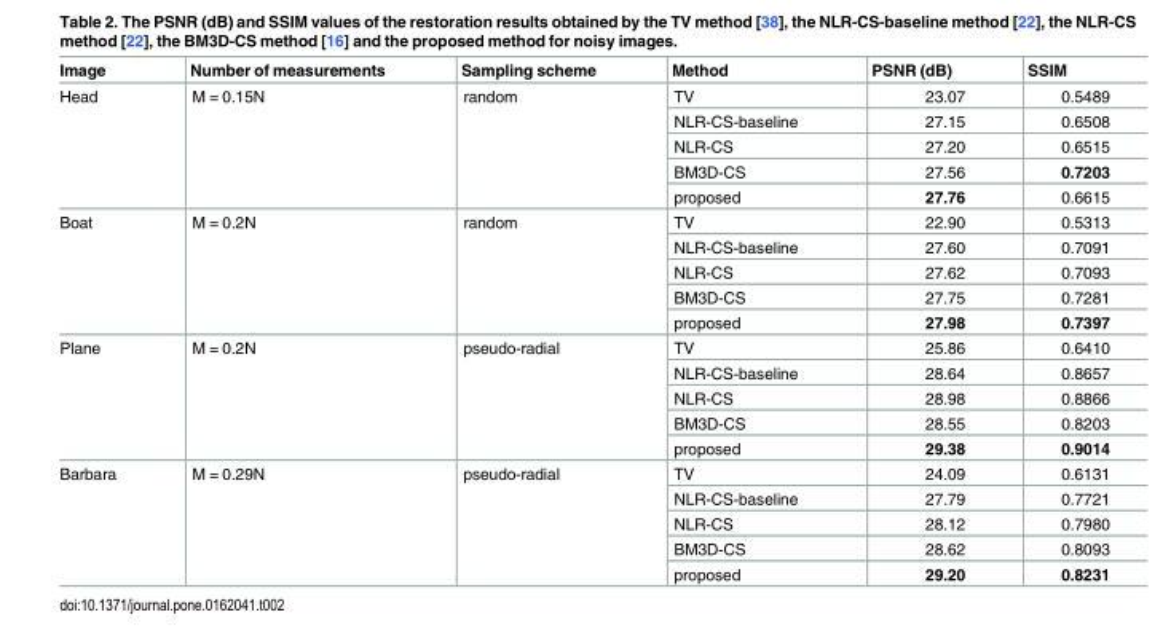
<table><thead><tr><td>Image</td><td>Number of measurements</td><td>Sampling scheme</td><td>Method</td><td>PSNR (dB)</td><td>SSIM</td></tr></thead><tbody><tr><td rowspan="5">Head</td><td rowspan="5">M = 0.15N</td><td rowspan="5">random</td><td>TV</td><td>23.07</td><td>0.5489</td></tr><tr><td>NLR-CS-baseline</td><td>27.15</td><td>0.6508</td></tr><tr><td>NLR-CS</td><td>27.20</td><td>0.6515</td></tr><tr><td>BM3D-CS</td><td>27.56</td><td>0.7203</td></tr><tr><td>proposed</td><td>27.76</td><td>0.6615</td></tr><tr><td rowspan="5">Boat</td><td rowspan="5">M = 0.2N</td><td rowspan="5">random</td><td>TV</td><td>22.90</td><td>0.5313</td></tr><tr><td>NLR-CS-baseline</td><td>27.60</td><td>0.7091</td></tr><tr><td>NLR-CS</td><td>27.62</td><td>0.7093</td></tr><tr><td>BM3D-CS</td><td>27.75</td><td>0.7281</td></tr><tr><td>proposed</td><td>27.98</td><td>0.7397</td></tr><tr><td rowspan="5">Plane</td><td rowspan="5">M = 0.2N</td><td rowspan="5">pseudo-radial</td><td>TV</td><td>25.86</td><td>0.6410</td></tr><tr><td>NLR-CS-baseline</td><td>28.64</td><td>0.8657</td></tr><tr><td>NLR-CS</td><td>28.98</td><td>0.8866</td></tr><tr><td>BM3D-CS</td><td>28.55</td><td>0.8203</td></tr><tr><td>proposed</td><td>29.38</td><td>0.9014</td></tr><tr><td rowspan="5">Barbara</td><td rowspan="5">M = 0.29N</td><td rowspan="5">pseudo-radial</td><td>TV</td><td>24.09</td><td>0.6131</td></tr><tr><td>NLR-CS-baseline</td><td>27.79</td><td>0.7721</td></tr><tr><td>NLR-CS</td><td>28.12</td><td>0.7980</td></tr><tr><td>BM3D-CS</td><td>28.62</td><td>0.8093</td></tr><tr><td>proposed</td><td>29.20</td><td>0.8231</td></tr></tbody></table>